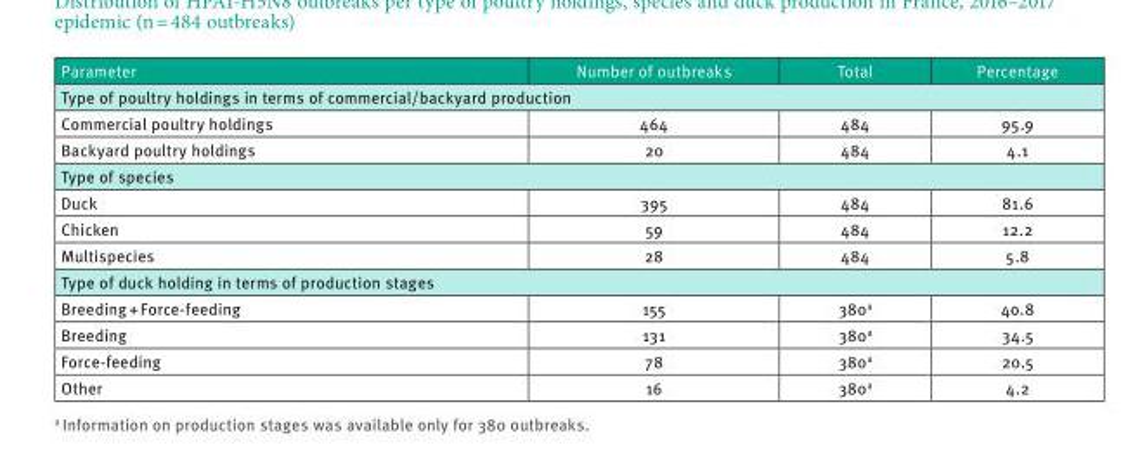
<table><thead><tr><td>Parameter</td><td>Number of outbreaks</td><td>Total</td><td>Percentage</td></tr></thead><tbody><tr><td colspan="4">Type of poultry holdings in terms of commercial/backyard production</td></tr><tr><td>Commercial poultry holdings</td><td>464</td><td>484</td><td>95.9</td></tr><tr><td>Backyard poultry holdings</td><td>20</td><td>484</td><td>4.1</td></tr><tr><td colspan="4">Type of species</td></tr><tr><td>Duck</td><td>395</td><td>484</td><td>81.6</td></tr><tr><td>Chicken</td><td>59</td><td>484</td><td>12.2</td></tr><tr><td>Multispecies</td><td>28</td><td>484</td><td>5.8</td></tr><tr><td colspan="4">Type of duck holding in terms of production stages</td></tr><tr><td>Breeding + Force-feeding</td><td>155</td><td>380<sup>a</sup></td><td>40.8</td></tr><tr><td>Breeding</td><td>131</td><td>380<sup>a</sup></td><td>34.5</td></tr><tr><td>Force-feeding</td><td>78</td><td>380<sup>a</sup></td><td>20.5</td></tr><tr><td>Other</td><td>16</td><td>380<sup>a</sup></td><td>4.2</td></tr></tbody></table>